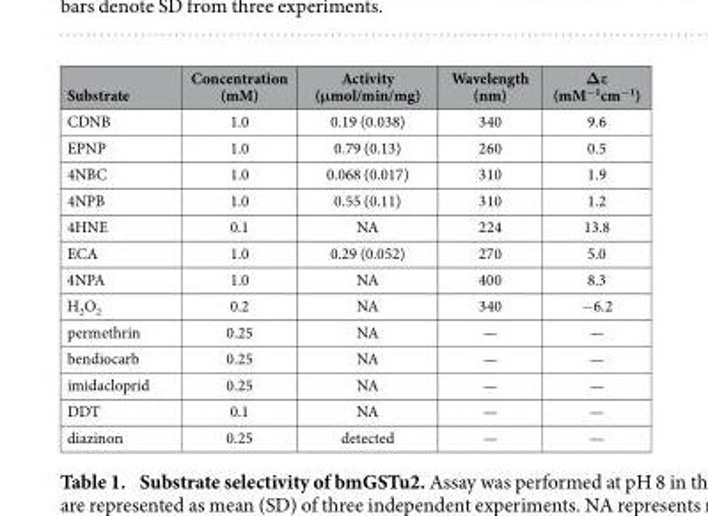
<table><thead><tr><td>Substrate</td><td>Concentration (mM)</td><td>Activity (μmol/min/mg)</td><td>Wavelength (nm)</td><td>Δε (mM<sup>−1</sup>cm<sup>−1</sup>)</td></tr></thead><tbody><tr><td>CDNB</td><td>1.0</td><td>0.19 (0.038)</td><td>340</td><td>9.6</td></tr><tr><td>EPNP</td><td>1.0</td><td>0.79 (0.13)</td><td>260</td><td>0.5</td></tr><tr><td>4NBC</td><td>1.0</td><td>0.068 (0.017)</td><td>310</td><td>1.9</td></tr><tr><td>4NPB</td><td>1.0</td><td>0.55 (0.11)</td><td>310</td><td>1.2</td></tr><tr><td>4HNE</td><td>0.1</td><td>NA</td><td>224</td><td>13.8</td></tr><tr><td>ECA</td><td>1.0</td><td>0.29 (0.052)</td><td>270</td><td>5.0</td></tr><tr><td>4NPA</td><td>1.0</td><td>NA</td><td>400</td><td>8.3</td></tr><tr><td>H<sub>2</sub>O<sub>2</sub></td><td>0.2</td><td>NA</td><td>340</td><td>− 6.2</td></tr><tr><td>permethrin</td><td>0.25</td><td>NA</td><td>—</td><td>—</td></tr><tr><td>bendiocarb</td><td>0.25</td><td>NA</td><td>—</td><td>—</td></tr><tr><td>imidacloprid</td><td>0.25</td><td>NA</td><td>—</td><td>—</td></tr><tr><td>DDT</td><td>0.1</td><td>NA</td><td>—</td><td>—</td></tr><tr><td>diazinon</td><td>0.25</td><td>detected</td><td>—</td><td>—</td></tr></tbody></table>